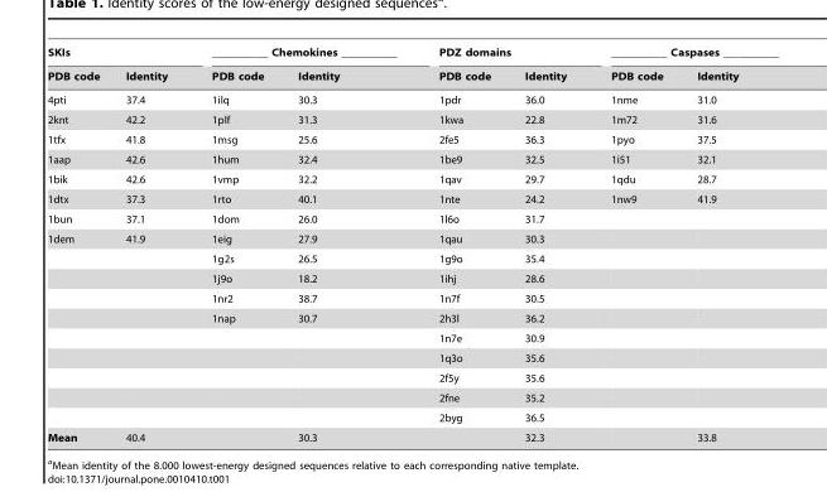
<table><thead><tr><td colspan="2">SKIs</td><td colspan="2">__________ Chemokines __________</td><td colspan="2">PDZ domains</td><td colspan="2">__________ Caspases __________</td></tr><tr><td>PDB code</td><td>Identity</td><td>PDB code</td><td>Identity</td><td>PDB code</td><td>Identity</td><td>PDB code</td><td>Identity</td></tr></thead><tbody><tr><td>4pti</td><td>37.4</td><td>1ilq</td><td>30.3</td><td>1pdr</td><td>36.0</td><td>1nme</td><td>31.0</td></tr><tr><td>2knt</td><td>42.2</td><td>1plf</td><td>31.3</td><td>1kwa</td><td>22.8</td><td>1m72</td><td>31.6</td></tr><tr><td>1tfx</td><td>41.8</td><td>1msg</td><td>25.6</td><td>2fe5</td><td>36.3</td><td>1pyo</td><td>37.5</td></tr><tr><td>1aap</td><td>42.6</td><td>1hum</td><td>32.4</td><td>1be9</td><td>32.5</td><td>1i51</td><td>32.1</td></tr><tr><td>1bik</td><td>42.6</td><td>1vmp</td><td>32.2</td><td>1qav</td><td>29.7</td><td>1qdu</td><td>28.7</td></tr><tr><td>1dtx</td><td>37.3</td><td>1rto</td><td>40.1</td><td>1nte</td><td>24.2</td><td>1nw9</td><td>41.9</td></tr><tr><td>1bun</td><td>37.1</td><td>1dom</td><td>26.0</td><td>1l6o</td><td>31.7</td><td></td><td></td></tr><tr><td rowspan="10">1dem</td><td>41.9</td><td>1eig</td><td>27.9</td><td>1qau</td><td>30.3</td><td></td><td></td></tr><tr><td></td><td>1g2s</td><td>26.5</td><td>1g9o</td><td>35.4</td><td></td><td></td></tr><tr><td></td><td>1j9o</td><td>18.2</td><td>1ihj</td><td>28.6</td><td></td><td></td></tr><tr><td></td><td>1nr2</td><td>38.7</td><td>1n7f</td><td>30.5</td><td></td><td></td></tr><tr><td></td><td>1nap</td><td>30.7</td><td>2h3l</td><td>36.2</td><td></td><td></td></tr><tr><td></td><td></td><td></td><td>1n7e</td><td>30.9</td><td></td><td></td></tr><tr><td></td><td></td><td></td><td>1q3o</td><td>35.6</td><td></td><td></td></tr><tr><td></td><td></td><td></td><td>2f5y</td><td>35.6</td><td></td><td></td></tr><tr><td></td><td></td><td></td><td>2fne</td><td>35.2</td><td></td><td></td></tr><tr><td></td><td></td><td></td><td>2byg</td><td>36.5</td><td></td><td></td></tr><tr><td>Mean</td><td>40.4</td><td></td><td>30.3</td><td></td><td>32.3</td><td></td><td>33.8</td></tr></tbody></table>